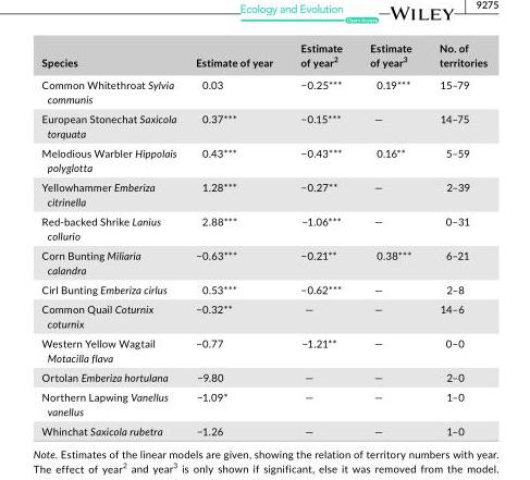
<table><thead><tr><td>Species</td><td>Estimate of year</td><td>Estimate of year<sup>2</sup></td><td>Estimate of year<sup>3</sup></td><td>No. of territories</td></tr></thead><tbody><tr><td>Common Whitethroat Sylvia communis</td><td>0.03</td><td>−0.25***</td><td>0.19***</td><td>15–79</td></tr><tr><td>European Stonechat Saxicola torquata</td><td>0.37***</td><td>−0.15***</td><td>—</td><td>14–75</td></tr><tr><td>Melodious Warbler Hippolais polyglotta</td><td>0.43***</td><td>−0.43***</td><td>0.16**</td><td>5–59</td></tr><tr><td>Yellowhammer Emberiza citrinella</td><td>1.28***</td><td>−0.27**</td><td>—</td><td>2–39</td></tr><tr><td>Red- backed Shrike Lanius collurio</td><td>2.88***</td><td>−1.06***</td><td>—</td><td>0–31</td></tr><tr><td>Corn Bunting Miliaria calandra</td><td>−0.63***</td><td>−0.21**</td><td>0.38***</td><td>6–21</td></tr><tr><td>Cirl Bunting Emberiza cirlus</td><td>0.53***</td><td>−0.62***</td><td>—</td><td>2–8</td></tr><tr><td>Common Quail Coturnix coturnix</td><td>−0.32**</td><td>—</td><td>—</td><td>14–6</td></tr><tr><td>Western Yellow Wagtail Motacilla flava</td><td>−0.77</td><td>−1.21**</td><td>—</td><td>0–0</td></tr><tr><td>Ortolan Emberiza hortulana</td><td>−9.80</td><td>—</td><td>—</td><td>2–0</td></tr><tr><td>Northern Lapwing Vanellus vanellus</td><td>−1.09*</td><td>—</td><td>—</td><td>1–0</td></tr><tr><td>Whinchat Saxicola rubetra</td><td>−1.26</td><td>—</td><td>—</td><td>1–0</td></tr></tbody></table>